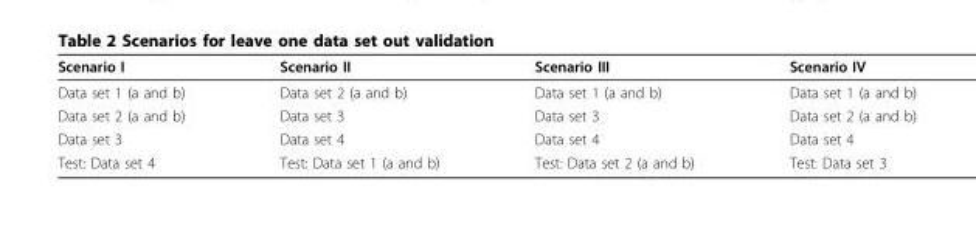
<table><thead><tr><td>Scenario I</td><td>Scenario II</td><td>Scenario III</td><td>Scenario IV</td></tr></thead><tbody><tr><td>Data set 1 (a and b)</td><td>Data set 2 (a and b)</td><td>Data set 1 (a and b)</td><td>Data set 1 (a and b)</td></tr><tr><td>Data set 2 (a and b)</td><td>Data set 3</td><td>Data set 3</td><td>Data set 2 (a and b)</td></tr><tr><td>Data set 3</td><td>Data set 4</td><td>Data set 4</td><td>Data set 4</td></tr><tr><td>Test: Data set 4</td><td>Test: Data set 1 (a and b)</td><td>Test: Data set 2 (a and b)</td><td>Test: Data set 3</td></tr></tbody></table>